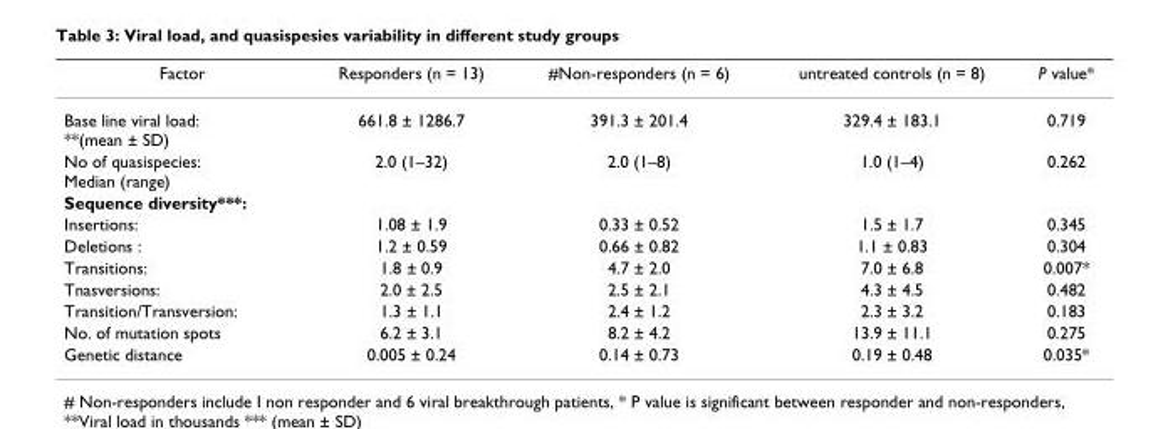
<table><thead><tr><td>Factor</td><td>Responders (n = 13)</td><td>#Non-responders (n = 6)</td><td>untreated controls (n = 8)</td><td>P value*</td></tr></thead><tbody><tr><td>Base line viral load: **(mean ± SD)</td><td>661.8 ± 1286.7</td><td>391.3 ± 201.4</td><td>329.4 ± 183.1</td><td>0.719</td></tr><tr><td>No of quasispecies: Median (range)</td><td>2.0 (1–32)</td><td>2.0 (1–8)</td><td>1.0 (1–4)</td><td>0.262</td></tr><tr><td colspan="5">Sequence diversity***:</td></tr><tr><td>Insertions:</td><td>1.08 ± 1.9</td><td>0.33 ± 0.52</td><td>1.5 ± 1.7</td><td>0.345</td></tr><tr><td>Deletions :</td><td>1.2 ± 0.59</td><td>0.66 ± 0.82</td><td>1.1 ± 0.83</td><td>0.304</td></tr><tr><td>Transitions:</td><td>1.8 ± 0.9</td><td>4.7 ± 2.0</td><td>7.0 ± 6.8</td><td>0.007*</td></tr><tr><td>Tnasversions:</td><td>2.0 ± 2.5</td><td>2.5 ± 2.1</td><td>4.3 ± 4.5</td><td>0.482</td></tr><tr><td>Transition/Transversion:</td><td>1.3 ± 1.1</td><td>2.4 ± 1.2</td><td>2.3 ± 3.2</td><td>0.183</td></tr><tr><td>No. of mutation spots</td><td>6.2 ± 3.1</td><td>8.2 ± 4.2</td><td>13.9 ± 11.1</td><td>0.275</td></tr><tr><td>Genetic distance</td><td>0.005 ± 0.24</td><td>0.14 ± 0.73</td><td>0.19 ± 0.48</td><td>0.035*</td></tr></tbody></table>